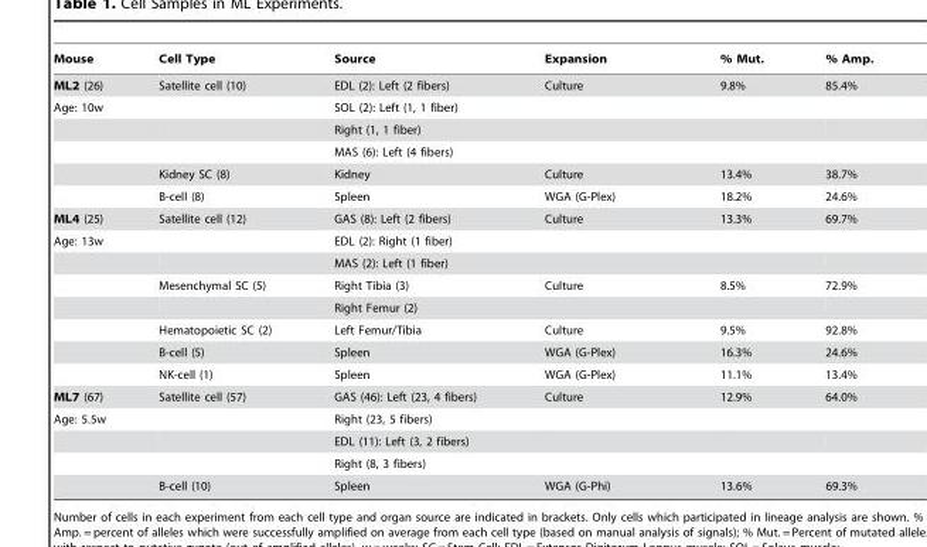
<table><thead><tr><td>Mouse</td><td>Cell Type</td><td>Source</td><td>Expansion</td><td>% Mut.</td><td>% Amp.</td></tr></thead><tbody><tr><td>ML2 (26)</td><td>Satellite cell (10)</td><td>EDL (2): Left (2 fibers)</td><td>Culture</td><td>9.8%</td><td>85.4%</td></tr><tr><td rowspan="5">Age: 10w</td><td></td><td>SOL (2): Left (1, 1 fiber)</td><td></td><td></td><td></td></tr><tr><td></td><td>Right (1, 1 fiber)</td><td></td><td></td><td></td></tr><tr><td></td><td>MAS (6): Left (4 fibers)</td><td></td><td></td><td></td></tr><tr><td>Kidney SC (8)</td><td>Kidney</td><td>Culture</td><td>13.4%</td><td>38.7%</td></tr><tr><td>B-cell (8)</td><td>Spleen</td><td>WGA (G-Plex)</td><td>18.2%</td><td>24.6%</td></tr><tr><td>ML4 (25)</td><td>Satellite cell (12)</td><td>GAS (8): Left (2 fibers)</td><td>Culture</td><td>13.3%</td><td>69.7%</td></tr><tr><td rowspan="7">Age: 13w</td><td></td><td>EDL (2): Right (1 fiber)</td><td></td><td></td><td></td></tr><tr><td></td><td>MAS (2): Left (1 fiber)</td><td></td><td></td><td></td></tr><tr><td>Mesenchymal SC (5)</td><td>Right Tibia (3)</td><td>Culture</td><td>8.5%</td><td>72.9%</td></tr><tr><td></td><td>Right Femur (2)</td><td></td><td></td><td></td></tr><tr><td>Hematopoietic SC (2)</td><td>Left Femur/Tibia</td><td>Culture</td><td>9.5%</td><td>92.8%</td></tr><tr><td>B-cell (5)</td><td>Spleen</td><td>WGA (G-Plex)</td><td>16.3%</td><td>24.6%</td></tr><tr><td>NK-cell (1)</td><td>Spleen</td><td>WGA (G-Plex)</td><td>11.1%</td><td>13.4%</td></tr><tr><td>ML7 (67)</td><td>Satellite cell (57)</td><td>GAS (46): Left (23, 4 fibers)</td><td>Culture</td><td>12.9%</td><td>64.0%</td></tr><tr><td rowspan="4">Age: 5.5w</td><td></td><td>Right (23, 5 fibers)</td><td></td><td></td><td></td></tr><tr><td></td><td>EDL (11): Left (3, 2 fibers)</td><td></td><td></td><td></td></tr><tr><td></td><td>Right (8, 3 fibers)</td><td></td><td></td><td></td></tr><tr><td>B-cell (10)</td><td>Spleen</td><td>WGA (G-Phi)</td><td>13.6%</td><td>69.3%</td></tr></tbody></table>